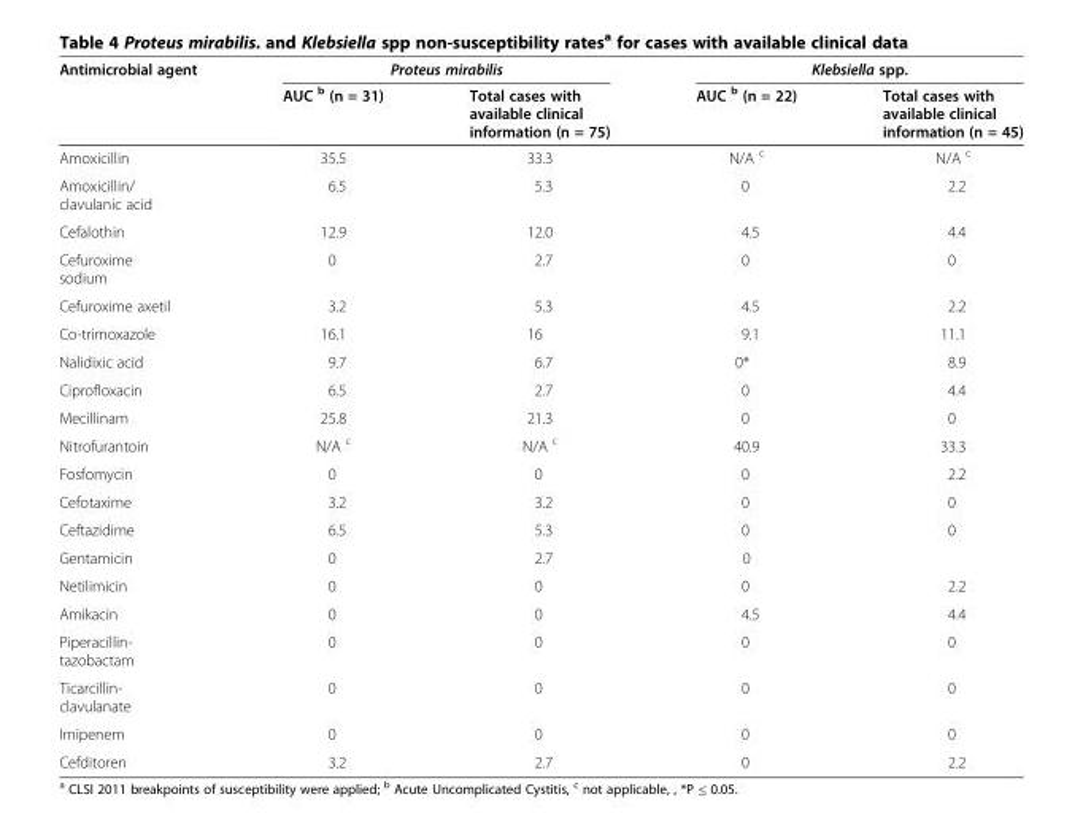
<table><thead><tr><td rowspan="2">Antimicrobial agent</td><td colspan="2">Proteus mirabilis</td><td colspan="2">Klebsiella spp.</td></tr><tr><td>AUC <sup>b</sup> (n = 31)</td><td>Total cases with available clinical information (n = 75)</td><td>AUC <sup>b</sup> (n = 22)</td><td>Total cases with available clinical information (n = 45)</td></tr></thead><tbody><tr><td>Amoxicillin</td><td>35.5</td><td>33.3</td><td>N/A <sup>c</sup></td><td>N/A <sup>c</sup></td></tr><tr><td>Amoxicillin/ clavulanic acid</td><td>6.5</td><td>5.3</td><td>0</td><td>2.2</td></tr><tr><td>Cefalothin</td><td>12.9</td><td>12.0</td><td>4.5</td><td>4.4</td></tr><tr><td>Cefuroxime sodium</td><td>0</td><td>2.7</td><td>0</td><td>0</td></tr><tr><td>Cefuroxime axetil</td><td>3.2</td><td>5.3</td><td>4.5</td><td>2.2</td></tr><tr><td>Co-trimoxazole</td><td>16.1</td><td>16</td><td>9.1</td><td>11.1</td></tr><tr><td>Nalidixic acid</td><td>9.7</td><td>6.7</td><td>0*</td><td>8.9</td></tr><tr><td>Ciprofloxacin</td><td>6.5</td><td>2.7</td><td>0</td><td>4.4</td></tr><tr><td>Mecillinam</td><td>25.8</td><td>21.3</td><td>0</td><td>0</td></tr><tr><td>Nitrofurantoin</td><td>N/A <sup>c</sup></td><td>N/A <sup>c</sup></td><td>40.9</td><td>33.3</td></tr><tr><td>Fosfomycin</td><td>0</td><td>0</td><td>0</td><td>2.2</td></tr><tr><td>Cefotaxime</td><td>3.2</td><td>3.2</td><td>0</td><td>0</td></tr><tr><td>Ceftazidime</td><td>6.5</td><td>5.3</td><td>0</td><td>0</td></tr><tr><td>Gentamicin</td><td>0</td><td>2.7</td><td>0</td><td></td></tr><tr><td>Netilimicin</td><td>0</td><td>0</td><td>0</td><td>2.2</td></tr><tr><td>Amikacin</td><td>0</td><td>0</td><td>4.5</td><td>4.4</td></tr><tr><td>Piperacillin- tazobactam</td><td>0</td><td>0</td><td>0</td><td>0</td></tr><tr><td>Ticarcillin- clavulanate</td><td>0</td><td>0</td><td>0</td><td>0</td></tr><tr><td>Imipenem</td><td>0</td><td>0</td><td>0</td><td>0</td></tr><tr><td>Cefditoren</td><td>3.2</td><td>2.7</td><td>0</td><td>2.2</td></tr></tbody></table>